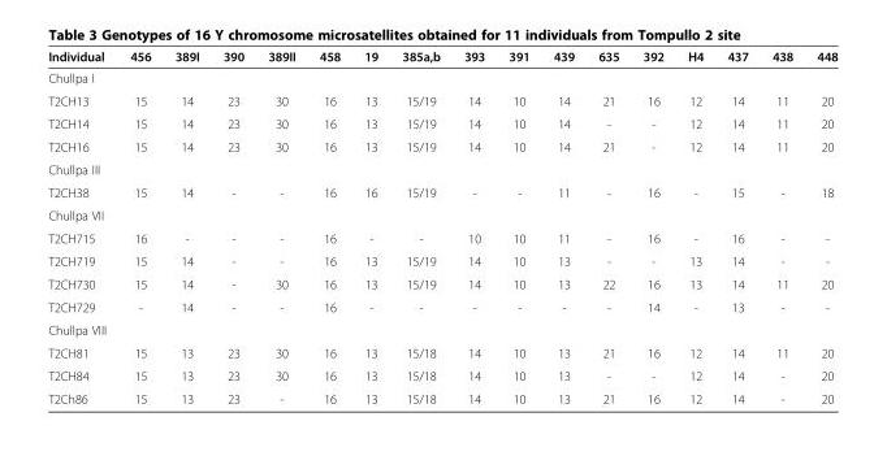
<table><thead><tr><td>Individual</td><td>456</td><td>389I</td><td>390</td><td>389II</td><td>458</td><td>19</td><td>385a,b</td><td>393</td><td>391</td><td>439</td><td>635</td><td>392</td><td>H4</td><td>437</td><td>438</td><td>448</td></tr></thead><tbody><tr><td colspan="17">Chullpa I</td></tr><tr><td>T2CH13</td><td>15</td><td>14</td><td>23</td><td>30</td><td>16</td><td>13</td><td>15/19</td><td>14</td><td>10</td><td>14</td><td>21</td><td>16</td><td>12</td><td>14</td><td>11</td><td>20</td></tr><tr><td>T2CH14</td><td>15</td><td>14</td><td>23</td><td>30</td><td>16</td><td>13</td><td>15/19</td><td>14</td><td>10</td><td>14</td><td>-</td><td>-</td><td>12</td><td>14</td><td>11</td><td>20</td></tr><tr><td>T2CH16</td><td>15</td><td>14</td><td>23</td><td>30</td><td>16</td><td>13</td><td>15/19</td><td>14</td><td>10</td><td>14</td><td>21</td><td>-</td><td>12</td><td>14</td><td>11</td><td>20</td></tr><tr><td colspan="17">Chullpa III</td></tr><tr><td>T2CH38</td><td>15</td><td>14</td><td>-</td><td>-</td><td>16</td><td>16</td><td>15/19</td><td>-</td><td>-</td><td>11</td><td>-</td><td>16</td><td>-</td><td>15</td><td>-</td><td>18</td></tr><tr><td colspan="17">Chullpa VII</td></tr><tr><td>T2CH715</td><td>16</td><td>-</td><td>-</td><td>-</td><td>16</td><td>-</td><td>-</td><td>10</td><td>10</td><td>11</td><td>-</td><td>16</td><td>-</td><td>16</td><td>-</td><td>-</td></tr><tr><td>T2CH719</td><td>15</td><td>14</td><td>-</td><td>-</td><td>16</td><td>13</td><td>15/19</td><td>14</td><td>10</td><td>13</td><td>-</td><td>-</td><td>13</td><td>14</td><td>-</td><td>-</td></tr><tr><td>T2CH730</td><td>15</td><td>14</td><td>-</td><td>30</td><td>16</td><td>13</td><td>15/19</td><td>14</td><td>10</td><td>13</td><td>22</td><td>16</td><td>13</td><td>14</td><td>11</td><td>20</td></tr><tr><td>T2CH729</td><td>-</td><td>14</td><td>-</td><td>-</td><td>16</td><td>-</td><td>-</td><td>-</td><td>-</td><td>-</td><td>-</td><td>14</td><td>-</td><td>13</td><td>-</td><td>-</td></tr><tr><td colspan="17">Chullpa VIII</td></tr><tr><td>T2CH81</td><td>15</td><td>13</td><td>23</td><td>30</td><td>16</td><td>13</td><td>15/18</td><td>14</td><td>10</td><td>13</td><td>21</td><td>16</td><td>12</td><td>14</td><td>11</td><td>20</td></tr><tr><td>T2CH84</td><td>15</td><td>13</td><td>23</td><td>30</td><td>16</td><td>13</td><td>15/18</td><td>14</td><td>10</td><td>13</td><td>-</td><td>-</td><td>12</td><td>14</td><td>-</td><td>20</td></tr><tr><td>T2Ch86</td><td>15</td><td>13</td><td>23</td><td>-</td><td>16</td><td>13</td><td>15/18</td><td>14</td><td>10</td><td>13</td><td>21</td><td>16</td><td>12</td><td>14</td><td>-</td><td>20</td></tr></tbody></table>